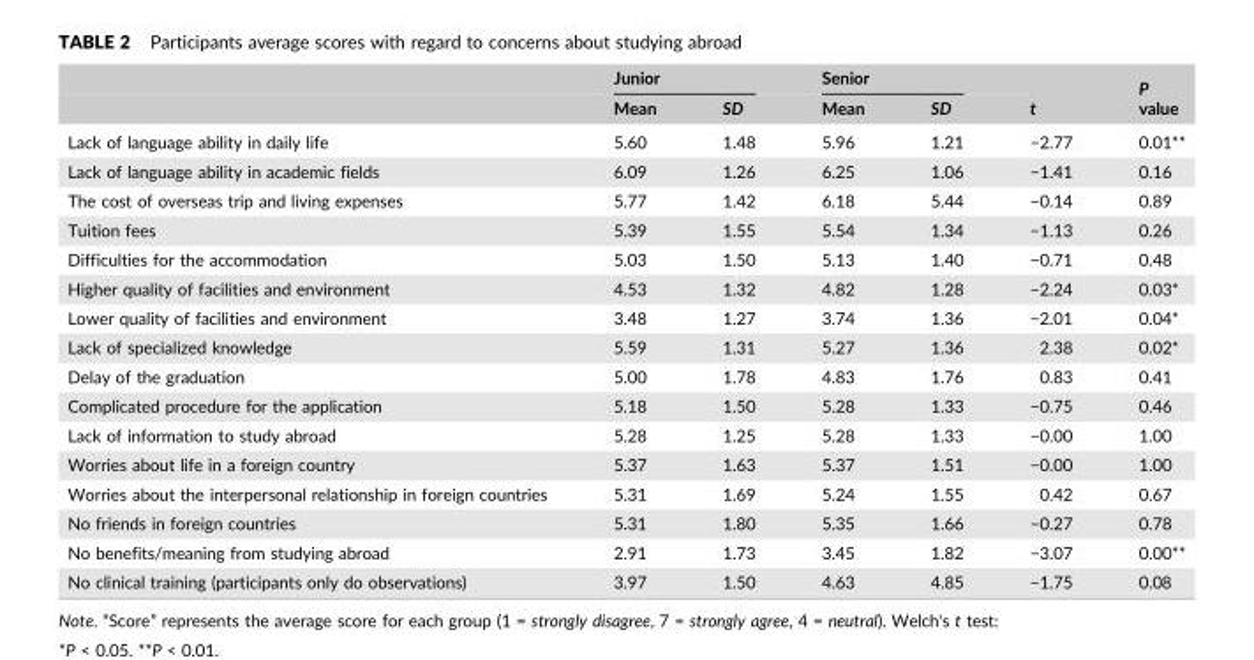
<table><thead><tr><td rowspan="2"></td><td colspan="2">Junior</td><td colspan="2">Senior</td><td rowspan="2">t</td><td rowspan="2">P value</td></tr><tr><td>Mean</td><td>SD</td><td>Mean</td><td>SD</td></tr></thead><tbody><tr><td>Lack of language ability in daily life</td><td>5.60</td><td>1.48</td><td>5.96</td><td>1.21</td><td>−2.77</td><td>0.01**</td></tr><tr><td>Lack of language ability in academic fields</td><td>6.09</td><td>1.26</td><td>6.25</td><td>1.06</td><td>−1.41</td><td>0.16</td></tr><tr><td>The cost of overseas trip and living expenses</td><td>5.77</td><td>1.42</td><td>6.18</td><td>5.44</td><td>−0.14</td><td>0.89</td></tr><tr><td>Tuition fees</td><td>5.39</td><td>1.55</td><td>5.54</td><td>1.34</td><td>−1.13</td><td>0.26</td></tr><tr><td>Difficulties for the accommodation</td><td>5.03</td><td>1.50</td><td>5.13</td><td>1.40</td><td>−0.71</td><td>0.48</td></tr><tr><td>Higher quality of facilities and environment</td><td>4.53</td><td>1.32</td><td>4.82</td><td>1.28</td><td>−2.24</td><td>0.03*</td></tr><tr><td>Lower quality of facilities and environment</td><td>3.48</td><td>1.27</td><td>3.74</td><td>1.36</td><td>−2.01</td><td>0.04*</td></tr><tr><td>Lack of specialized knowledge</td><td>5.59</td><td>1.31</td><td>5.27</td><td>1.36</td><td>2.38</td><td>0.02*</td></tr><tr><td>Delay of the graduation</td><td>5.00</td><td>1.78</td><td>4.83</td><td>1.76</td><td>0.83</td><td>0.41</td></tr><tr><td>Complicated procedure for the application</td><td>5.18</td><td>1.50</td><td>5.28</td><td>1.33</td><td>−0.75</td><td>0.46</td></tr><tr><td>Lack of information to study abroad</td><td>5.28</td><td>1.25</td><td>5.28</td><td>1.33</td><td>−0.00</td><td>1.00</td></tr><tr><td>Worries about life in a foreign country</td><td>5.37</td><td>1.63</td><td>5.37</td><td>1.51</td><td>−0.00</td><td>1.00</td></tr><tr><td>Worries about the interpersonal relationship in foreign countries</td><td>5.31</td><td>1.69</td><td>5.24</td><td>1.55</td><td>0.42</td><td>0.67</td></tr><tr><td>No friends in foreign countries</td><td>5.31</td><td>1.80</td><td>5.35</td><td>1.66</td><td>−0.27</td><td>0.78</td></tr><tr><td>No benefits/meaning from studying abroad</td><td>2.91</td><td>1.73</td><td>3.45</td><td>1.82</td><td>−3.07</td><td>0.00**</td></tr><tr><td>No clinical training (participants only do observations)</td><td>3.97</td><td>1.50</td><td>4.63</td><td>4.85</td><td>−1.75</td><td>0.08</td></tr></tbody></table>